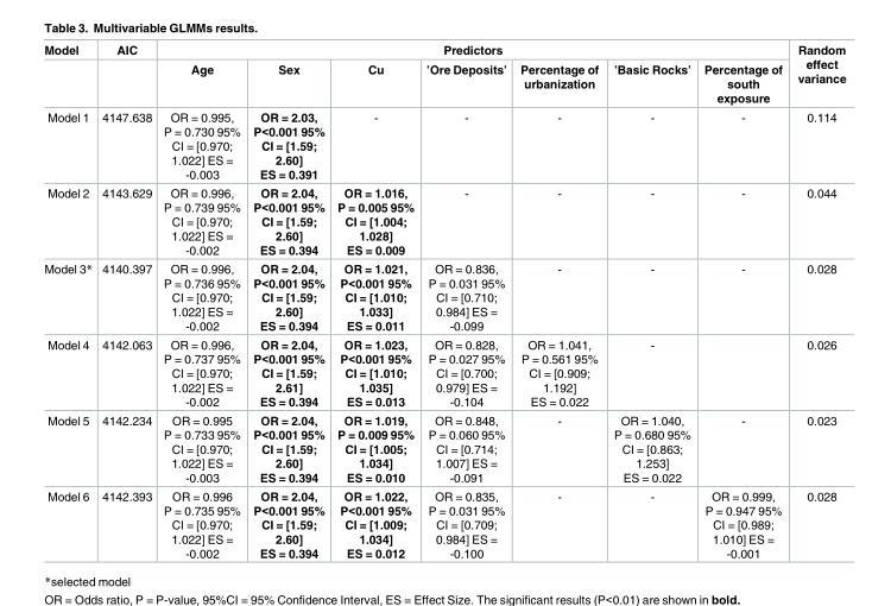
<table><thead><tr><td rowspan="2">Model</td><td rowspan="2">AIC</td><td colspan="7">Predictors</td><td rowspan="2">Random effect variance</td></tr><tr><td>Age</td><td>Sex</td><td>Cu</td><td>’Ore Deposits’</td><td>Percentage of urbanization</td><td>’Basic Rocks’</td><td>Percentage of south exposure</td></tr></thead><tbody><tr><td>Model 1</td><td>4147.638</td><td>OR = 0.995, P = 0.730 95% CI = [0.970; 1.022] ES = -0.003</td><td>OR = 2.03, P&lt;0.001 95% CI = [1.59; 2.60] ES = 0.391</td><td>-</td><td>-</td><td>-</td><td>-</td><td>-</td><td>0.114</td></tr><tr><td>Model 2</td><td>4143.629</td><td>OR = 0.996, P = 0.739 95% CI = [0.970; 1.022] ES = -0.002</td><td>OR = 2.04, P&lt;0.001 95% CI = [1.59; 2.60] ES = 0.394</td><td>OR = 1.016, P = 0.005 95% CI = [1.004; 1.028] ES = 0.009</td><td>-</td><td>-</td><td>-</td><td>-</td><td>0.044</td></tr><tr><td>Model 3*</td><td>4140.397</td><td>OR = 0.996, P = 0.736 95% CI = [0.970; 1.022] ES = -0.002</td><td>OR = 2.04, P&lt;0.001 95% CI = [1.59; 2.60] ES = 0.394</td><td>OR = 1.021, P&lt;0.001 95% CI = [1.010; 1.033] ES = 0.011</td><td>OR = 0.836, P = 0.031 95% CI = [0.710; 0.984] ES = -0.099</td><td>-</td><td>-</td><td>-</td><td>0.028</td></tr><tr><td>Model 4</td><td>4142.063</td><td>OR = 0.996, P = 0.737 95% CI = [0.970; 1.022] ES = -0.002</td><td>OR = 2.04, P&lt;0.001 95% CI = [1.59; 2.61] ES = 0.394</td><td>OR = 1.023, P&lt;0.001 95% CI = [1.010; 1.035] ES = 0.013</td><td>OR = 0.828, P = 0.027 95% CI = [0.700; 0.979] ES = -0.104</td><td>OR = 1.041, P = 0.561 95% CI = [0.909; 1.192] ES = 0.022</td><td>-</td><td></td><td>0.026</td></tr><tr><td>Model 5</td><td>4142.234</td><td>OR = 0.995 P = 0.733 95% CI = [0.970; 1.022] ES = -0.003</td><td>OR = 2.04, P&lt;0.001 95% CI = [1.59; 2.60] ES = 0.394</td><td>OR = 1.019, P = 0.009 95% CI = [1.005; 1.034] ES = 0.010</td><td>OR = 0.848, P = 0.060 95% CI = [0.714; 1.007] ES = -0.091</td><td>-</td><td>OR = 1.040, P = 0.680 95% CI = [0.863; 1.253] ES = 0.022</td><td>-</td><td>0.023</td></tr><tr><td>Model 6</td><td>4142.393</td><td>OR = 0.996 P = 0.735 95% CI = [0.970; 1.022] ES = -0.002</td><td>OR = 2.04, P&lt;0.001 95% CI = [1.59; 2.60] ES = 0.394</td><td>OR = 1.022, P&lt;0.001 95% CI = [1.009; 1.034] ES = 0.012</td><td>OR = 0.835, P = 0.031 95% CI = [0.709; 0.984] ES = -0.100</td><td>-</td><td>-</td><td>OR = 0.999, P = 0.947 95% CI = [0.989; 1.010] ES = -0.001</td><td>0.028</td></tr></tbody></table>